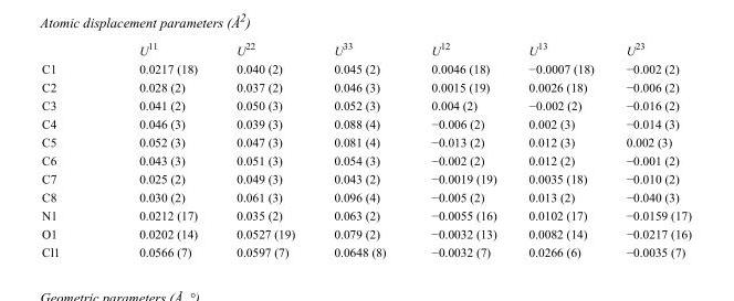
<table><thead><tr><td></td><td>U<sup>11</sup></td><td>U<sup>22</sup></td><td>U<sup>33</sup></td><td>U<sup>12</sup></td><td>U<sup>13</sup></td><td>U<sup>23</sup></td></tr></thead><tbody><tr><td>C1</td><td>0.0217 (18)</td><td>0.040 (2)</td><td>0.045 (2)</td><td>0.0046 (18)</td><td>−0.0007 (18)</td><td>−0.002 (2)</td></tr><tr><td>C2</td><td>0.028 (2)</td><td>0.037 (2)</td><td>0.046 (3)</td><td>0.0015 (19)</td><td>0.0026 (18)</td><td>−0.006 (2)</td></tr><tr><td>C3</td><td>0.041 (2)</td><td>0.050 (3)</td><td>0.052 (3)</td><td>0.004 (2)</td><td>−0.002 (2)</td><td>−0.016 (2)</td></tr><tr><td>C4</td><td>0.046 (3)</td><td>0.039 (3)</td><td>0.088 (4)</td><td>−0.006 (2)</td><td>0.002 (3)</td><td>−0.014 (3)</td></tr><tr><td>C5</td><td>0.052 (3)</td><td>0.047 (3)</td><td>0.081 (4)</td><td>−0.013 (2)</td><td>0.012 (3)</td><td>0.002 (3)</td></tr><tr><td>C6</td><td>0.043 (3)</td><td>0.051 (3)</td><td>0.054 (3)</td><td>−0.002 (2)</td><td>0.012 (2)</td><td>−0.001 (2)</td></tr><tr><td>C7</td><td>0.025 (2)</td><td>0.049 (3)</td><td>0.043 (2)</td><td>−0.0019 (19)</td><td>0.0035 (18)</td><td>−0.010 (2)</td></tr><tr><td>C8</td><td>0.030 (2)</td><td>0.061 (3)</td><td>0.096 (4)</td><td>−0.005 (2)</td><td>0.013 (2)</td><td>−0.040 (3)</td></tr><tr><td>N1</td><td>0.0212 (17)</td><td>0.035 (2)</td><td>0.063 (2)</td><td>−0.0055 (16)</td><td>0.0102 (17)</td><td>−0.0159 (17)</td></tr><tr><td>O1</td><td>0.0202 (14)</td><td>0.0527 (19)</td><td>0.079 (2)</td><td>−0.0032 (13)</td><td>0.0082 (14)</td><td>−0.0217 (16)</td></tr><tr><td>Cl1</td><td>0.0566 (7)</td><td>0.0597 (7)</td><td>0.0648 (8)</td><td>−0.0032 (7)</td><td>0.0266 (6)</td><td>−0.0035 (7)</td></tr></tbody></table>